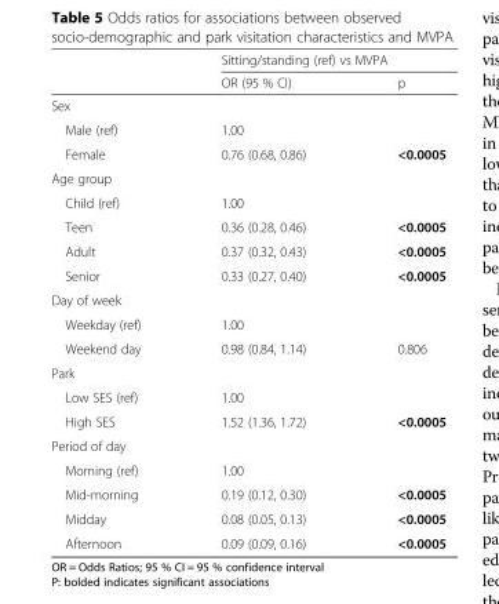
<table><thead><tr><td rowspan="2"></td><td colspan="2">Sitting/standing (ref) vs MVPA</td></tr><tr><td>OR (95 % CI)</td><td>p</td></tr></thead><tbody><tr><td colspan="3">Sex</td></tr><tr><td>Male (ref)</td><td>1.00</td><td></td></tr><tr><td>Female</td><td>0.76 (0.68, 0.86)</td><td>&lt;0.0005</td></tr><tr><td colspan="3">Age group</td></tr><tr><td>Child (ref)</td><td>1.00</td><td></td></tr><tr><td>Teen</td><td>0.36 (0.28, 0.46)</td><td>&lt;0.0005</td></tr><tr><td>Adult</td><td>0.37 (0.32, 0.43)</td><td>&lt;0.0005</td></tr><tr><td>Senior</td><td>0.33 (0.27, 0.40)</td><td>&lt;0.0005</td></tr><tr><td colspan="3">Day of week</td></tr><tr><td>Weekday (ref)</td><td>1.00</td><td></td></tr><tr><td>Weekend day</td><td>0.98 (0.84, 1.14)</td><td>0.806</td></tr><tr><td colspan="3">Park</td></tr><tr><td>Low SES (ref)</td><td>1.00</td><td></td></tr><tr><td>High SES</td><td>1.52 (1.36, 1.72)</td><td>&lt;0.0005</td></tr><tr><td colspan="3">Period of day</td></tr><tr><td>Morning (ref)</td><td>1.00</td><td></td></tr><tr><td>Mid-morning</td><td>0.19 (0.12, 0.30)</td><td>&lt;0.0005</td></tr><tr><td>Midday</td><td>0.08 (0.05, 0.13)</td><td>&lt;0.0005</td></tr><tr><td>Afternoon</td><td>0.09 (0.09, 0.16)</td><td>&lt;0.0005</td></tr></tbody></table>